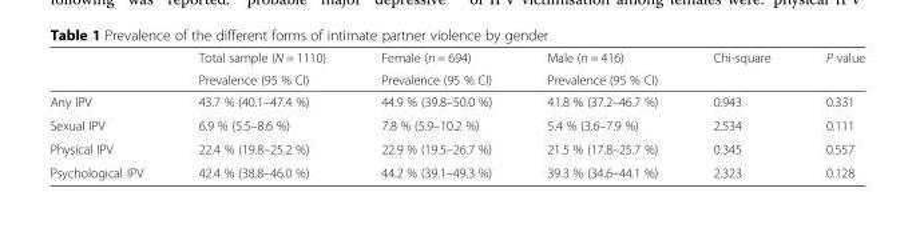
<table><thead><tr><td rowspan="2"></td><td rowspan="2">Total sample (N = 1110) Prevalence (95 % CI)</td><td rowspan="2">Female (n = 694) Prevalence (95 % CI)</td><td rowspan="2">Male (n = 416) Prevalence (95 % CI)</td><td rowspan="2">Chi-square</td><td rowspan="2">P value</td></tr><tr></tr></thead><tbody><tr><td>Any IPV</td><td>43.7 % (40.1–47.4 %)</td><td>44.9 % (39.8–50.0 %)</td><td>41.8 % (37.2–46.7 %)</td><td>0.943</td><td>0.331</td></tr><tr><td>Sexual IPV</td><td>6.9 % (5.5–8.6 %)</td><td>7.8 % (5.9–10.2 %)</td><td>5.4 % (3.6–7.9 %)</td><td>2.534</td><td>0.111</td></tr><tr><td>Physical IPV</td><td>22.4 % (19.8–25.2 %)</td><td>22.9 % (19.5–26.7 %)</td><td>21.5 % (17.8–25.7 %)</td><td>0.345</td><td>0.557</td></tr><tr><td>Psychological IPV</td><td>42.4 % (38.8–46.0 %)</td><td>44.2 % (39.1–49.3 %)</td><td>39.3 % (34.6–44.1 %)</td><td>2.323</td><td>0.128</td></tr></tbody></table>